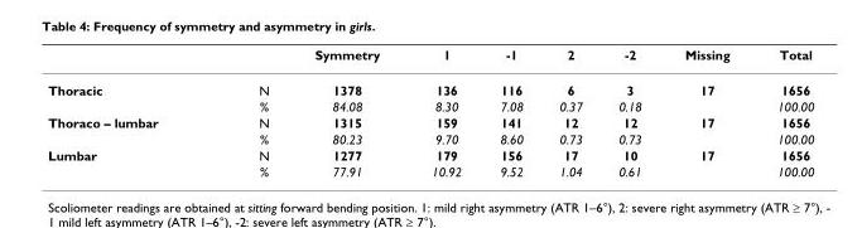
<table><thead><tr><td></td><td></td><td>Symmetry</td><td>1</td><td>-1</td><td>2</td><td>-2</td><td>Missing</td><td>Total</td></tr></thead><tbody><tr><td rowspan="2">Thoracic</td><td>N</td><td>1378</td><td>136</td><td>116</td><td>6</td><td>3</td><td>17</td><td>1656</td></tr><tr><td>%</td><td>84.08</td><td>8.30</td><td>7.08</td><td>0.37</td><td>0.18</td><td></td><td>100.00</td></tr><tr><td rowspan="2">Thoraco – lumbar</td><td>N</td><td>1315</td><td>159</td><td>141</td><td>12</td><td>12</td><td>17</td><td>1656</td></tr><tr><td>%</td><td>80.23</td><td>9.70</td><td>8.60</td><td>0.73</td><td>0.73</td><td></td><td>100.00</td></tr><tr><td rowspan="2">Lumbar</td><td>N</td><td>1277</td><td>179</td><td>156</td><td>17</td><td>10</td><td>17</td><td>1656</td></tr><tr><td>%</td><td>77.91</td><td>10.92</td><td>9.52</td><td>1.04</td><td>0.61</td><td></td><td>100.00</td></tr></tbody></table>